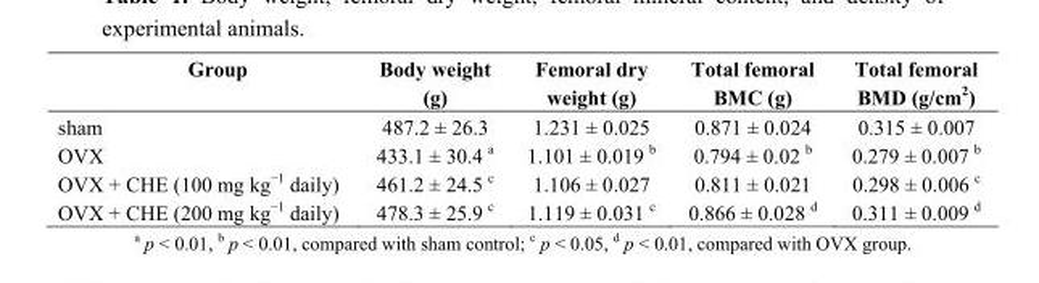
<table><thead><tr><td>Group</td><td>Body weight (g)</td><td>Femoral dry weight (g)</td><td>Total femoral BMC (g)</td><td>Total femoral BMD (g/cm<sup>2</sup>)</td></tr></thead><tbody><tr><td>sham</td><td>487.2 ± 26.3</td><td>1.231 ± 0.025</td><td>0.871 ± 0.024</td><td>0.315 ± 0.007</td></tr><tr><td>OVX</td><td>433.1 ± 30.4 <sup>a</sup></td><td>1.101 ± 0.019 <sup>b</sup></td><td>0.794 ± 0.02 <sup>b</sup></td><td>0.279 ± 0.007 <sup>b</sup></td></tr><tr><td>OVX + CHE (100 mg kg<sup>−1</sup> daily)</td><td>461.2 ± 24.5 <sup>c</sup></td><td>1.106 ± 0.027</td><td>0.811 ± 0.021</td><td>0.298 ± 0.006 <sup>c</sup></td></tr><tr><td>OVX + CHE (200 mg kg<sup>−1</sup> daily)</td><td>478.3 ± 25.9 <sup>c</sup></td><td>1.119 ± 0.031 <sup>c</sup></td><td>0.866 ± 0.028 <sup>d</sup></td><td>0.311 ± 0.009 <sup>d</sup></td></tr></tbody></table>